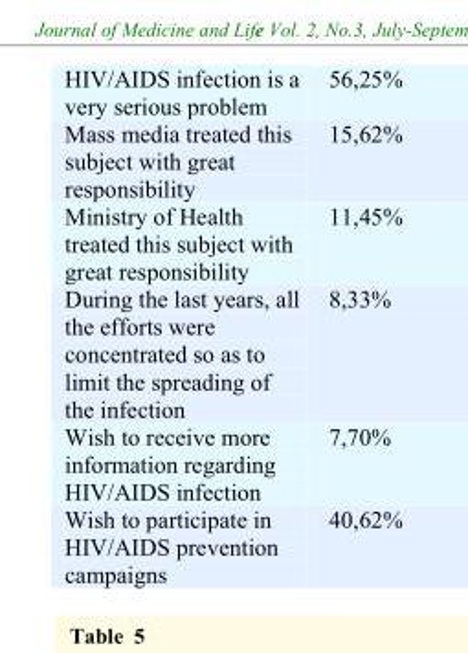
<table><tbody><tr><td>HIV/AIDS infection is a very serious problem</td><td>56,25%</td></tr><tr><td>Mass media treated this subject with great responsibility</td><td>15,62%</td></tr><tr><td>Ministry of Health treated this subject with great responsibility</td><td>11,45%</td></tr><tr><td>During the last years, all the efforts were concentrated so as to limit the spreading of the infection</td><td>8,33%</td></tr><tr><td>Wish to receive more information regarding HIV/AIDS infection</td><td>7,70%</td></tr><tr><td>Wish to participate in HIV/AIDS prevention campaigns</td><td>40,62%</td></tr></tbody></table>